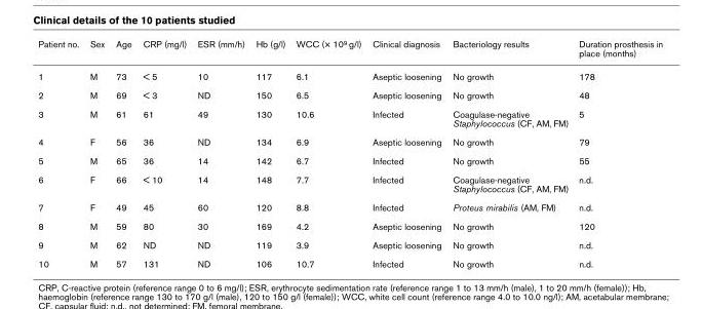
<table><thead><tr><td>Patient no.</td><td>Sex</td><td>Age</td><td>CRP (mg/l)</td><td>ESR (mm/h)</td><td>Hb (g/l)</td><td>WCC (× 10<sup>9</sup> g/l)</td><td>Clinical diagnosis</td><td>Bacteriology results</td><td>Duration prosthesis in place (months)</td></tr></thead><tbody><tr><td>1</td><td>M</td><td>73</td><td>&lt; 5</td><td>10</td><td>117</td><td>6.1</td><td>Aseptic loosening</td><td>No growth</td><td>178</td></tr><tr><td>2</td><td>M</td><td>69</td><td>&lt; 3</td><td>ND</td><td>150</td><td>6.5</td><td>Aseptic loosening</td><td>No growth</td><td>48</td></tr><tr><td>3</td><td>M</td><td>61</td><td>61</td><td>49</td><td>130</td><td>10.6</td><td>Infected</td><td>Coagulase-negative Staphylococcus (CF, AM, FM)</td><td>5</td></tr><tr><td>4</td><td>F</td><td>56</td><td>36</td><td>ND</td><td>134</td><td>6.9</td><td>Aseptic loosening</td><td>No growth</td><td>79</td></tr><tr><td>5</td><td>M</td><td>65</td><td>36</td><td>14</td><td>142</td><td>6.7</td><td>Infected</td><td>No growth</td><td>55</td></tr><tr><td>6</td><td>F</td><td>66</td><td>&lt; 10</td><td>14</td><td>148</td><td>7.7</td><td>Infected</td><td>Coagulase-negative Staphylococcus (CF, AM, FM)</td><td>n.d.</td></tr><tr><td>7</td><td>F</td><td>49</td><td>45</td><td>60</td><td>120</td><td>8.8</td><td>Infected</td><td>Proteus mirabilis (AM, FM)</td><td>n.d.</td></tr><tr><td>8</td><td>M</td><td>59</td><td>80</td><td>30</td><td>169</td><td>4.2</td><td>Aseptic loosening</td><td>No growth</td><td>120</td></tr><tr><td>9</td><td>M</td><td>62</td><td>ND</td><td>ND</td><td>119</td><td>3.9</td><td>Aseptic loosening</td><td>No growth</td><td>n.d.</td></tr><tr><td>10</td><td>M</td><td>57</td><td>131</td><td>ND</td><td>106</td><td>10.7</td><td>Infected</td><td>No growth</td><td>n.d.</td></tr></tbody></table>